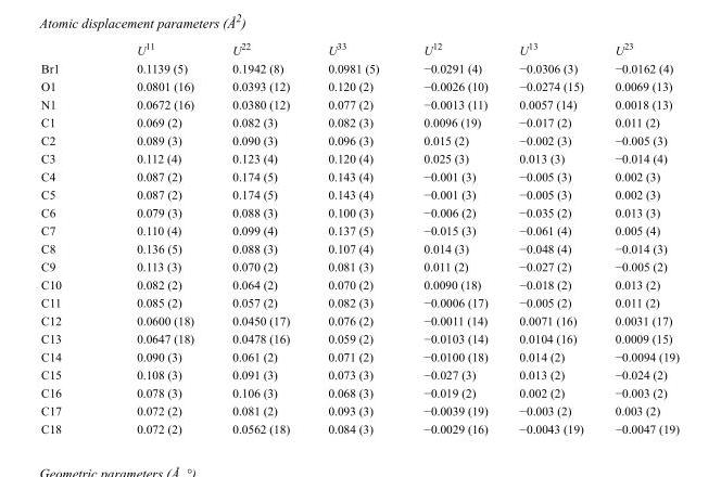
<table><thead><tr><td></td><td>U<sup>11</sup></td><td>U<sup>22</sup></td><td>U<sup>33</sup></td><td>U<sup>12</sup></td><td>U<sup>13</sup></td><td>U<sup>23</sup></td></tr></thead><tbody><tr><td>Br1</td><td>0.1139 (5)</td><td>0.1942 (8)</td><td>0.0981 (5)</td><td>−0.0291 (4)</td><td>−0.0306 (3)</td><td>−0.0162 (4)</td></tr><tr><td>O1</td><td>0.0801 (16)</td><td>0.0393 (12)</td><td>0.120 (2)</td><td>−0.0026 (10)</td><td>−0.0274 (15)</td><td>0.0069 (13)</td></tr><tr><td>N1</td><td>0.0672 (16)</td><td>0.0380 (12)</td><td>0.077 (2)</td><td>−0.0013 (11)</td><td>0.0057 (14)</td><td>0.0018 (13)</td></tr><tr><td>C1</td><td>0.069 (2)</td><td>0.082 (3)</td><td>0.082 (3)</td><td>0.0096 (19)</td><td>−0.017 (2)</td><td>0.011 (2)</td></tr><tr><td>C2</td><td>0.089 (3)</td><td>0.090 (3)</td><td>0.096 (3)</td><td>0.015 (2)</td><td>−0.002 (3)</td><td>−0.005 (3)</td></tr><tr><td>C3</td><td>0.112 (4)</td><td>0.123 (4)</td><td>0.120 (4)</td><td>0.025 (3)</td><td>0.013 (3)</td><td>−0.014 (4)</td></tr><tr><td>C4</td><td>0.087 (2)</td><td>0.174 (5)</td><td>0.143 (4)</td><td>−0.001 (3)</td><td>−0.005 (3)</td><td>0.002 (3)</td></tr><tr><td>C5</td><td>0.087 (2)</td><td>0.174 (5)</td><td>0.143 (4)</td><td>−0.001 (3)</td><td>−0.005 (3)</td><td>0.002 (3)</td></tr><tr><td>C6</td><td>0.079 (3)</td><td>0.088 (3)</td><td>0.100 (3)</td><td>−0.006 (2)</td><td>−0.035 (2)</td><td>0.013 (3)</td></tr><tr><td>C7</td><td>0.110 (4)</td><td>0.099 (4)</td><td>0.137 (5)</td><td>−0.015 (3)</td><td>−0.061 (4)</td><td>0.005 (4)</td></tr><tr><td>C8</td><td>0.136 (5)</td><td>0.088 (3)</td><td>0.107 (4)</td><td>0.014 (3)</td><td>−0.048 (4)</td><td>−0.014 (3)</td></tr><tr><td>C9</td><td>0.113 (3)</td><td>0.070 (2)</td><td>0.081 (3)</td><td>0.011 (2)</td><td>−0.027 (2)</td><td>−0.005 (2)</td></tr><tr><td>C10</td><td>0.082 (2)</td><td>0.064 (2)</td><td>0.070 (2)</td><td>0.0090 (18)</td><td>−0.018 (2)</td><td>0.013 (2)</td></tr><tr><td>C11</td><td>0.085 (2)</td><td>0.057 (2)</td><td>0.082 (3)</td><td>−0.0006 (17)</td><td>−0.005 (2)</td><td>0.011 (2)</td></tr><tr><td>C12</td><td>0.0600 (18)</td><td>0.0450 (17)</td><td>0.076 (2)</td><td>−0.0011 (14)</td><td>0.0071 (16)</td><td>0.0031 (17)</td></tr><tr><td>C13</td><td>0.0647 (18)</td><td>0.0478 (16)</td><td>0.059 (2)</td><td>−0.0103 (14)</td><td>0.0104 (16)</td><td>0.0009 (15)</td></tr><tr><td>C14</td><td>0.090 (3)</td><td>0.061 (2)</td><td>0.071 (2)</td><td>−0.0100 (18)</td><td>0.014 (2)</td><td>−0.0094 (19)</td></tr><tr><td>C15</td><td>0.108 (3)</td><td>0.091 (3)</td><td>0.073 (3)</td><td>−0.027 (3)</td><td>0.013 (2)</td><td>−0.024 (2)</td></tr><tr><td>C16</td><td>0.078 (3)</td><td>0.106 (3)</td><td>0.068 (3)</td><td>−0.019 (2)</td><td>0.002 (2)</td><td>−0.003 (2)</td></tr><tr><td>C17</td><td>0.072 (2)</td><td>0.081 (2)</td><td>0.093 (3)</td><td>−0.0039 (19)</td><td>−0.003 (2)</td><td>0.003 (2)</td></tr><tr><td>C18</td><td>0.072 (2)</td><td>0.0562 (18)</td><td>0.084 (3)</td><td>−0.0029 (16)</td><td>−0.0043 (19)</td><td>−0.0047 (19)</td></tr></tbody></table>